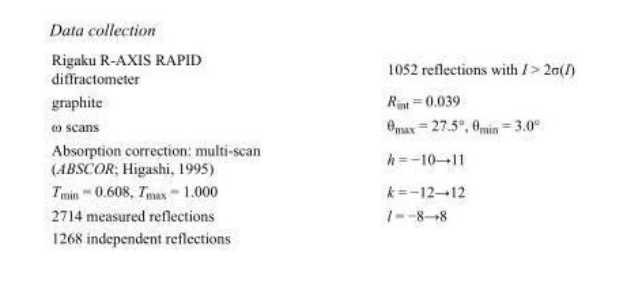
<table><tbody><tr><td>Rigaku R-AXIS RAPID diffractometer</td><td>1052 reflections with I &gt; 2σ(I)</td></tr><tr><td>graphite</td><td>R<sub>int</sub> = 0.039</td></tr><tr><td>ω scans</td><td>θ<sub>max</sub> = 27.5°, θ<sub>min</sub> = 3.0°</td></tr><tr><td>Absorption correction: multi-scan (ABSCOR; Higashi, 1995)</td><td>h = −10→11</td></tr><tr><td>T<sub>min</sub> = 0.608, T<sub>max</sub> = 1.000</td><td>k = −12→12</td></tr><tr><td>2714 measured reflections</td><td>l = −8→8</td></tr><tr><td>1268 independent reflections</td><td></td></tr></tbody></table>